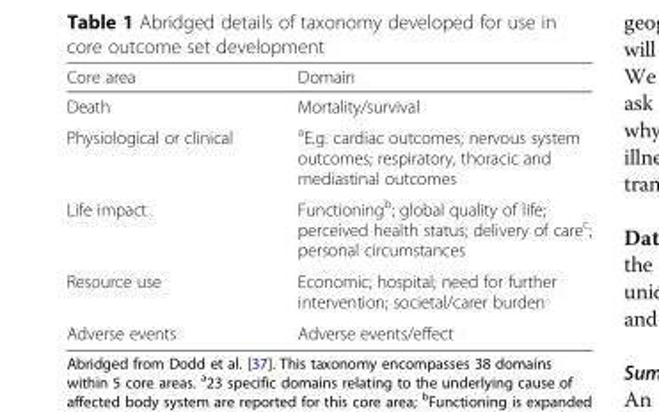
<table><thead><tr><td>Core area</td><td>Domain</td></tr></thead><tbody><tr><td>Death</td><td>Mortality/survival</td></tr><tr><td>Physiological or clinical</td><td><sup>a</sup>E.g. cardiac outcomes; nervous system outcomes; respiratory, thoracic and mediastinal outcomes</td></tr><tr><td>Life impact</td><td>Functioning<sup>b</sup>; global quality of life; perceived health status; delivery of care<sup>c</sup>; personal circumstances</td></tr><tr><td>Resource use</td><td>Economic; hospital; need for further intervention; societal/carer burden</td></tr><tr><td>Adverse events</td><td>Adverse events/effect</td></tr></tbody></table>